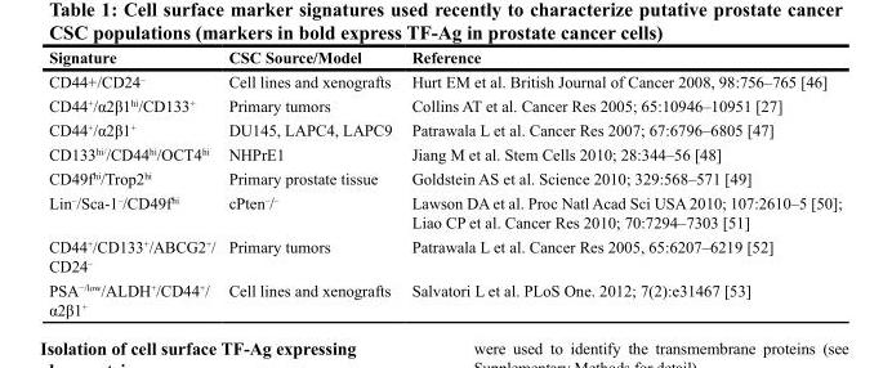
<table><thead><tr><td>Signature</td><td>CSC Source/Model</td><td>Reference</td></tr></thead><tbody><tr><td>CD44+/CD24<sup>–</sup></td><td>Cell lines and xenografts</td><td>Hurt EM et al. British Journal of Cancer 2008, 98:756–765 [46]</td></tr><tr><td>CD44<sup>+</sup>/α2β1<sup>hi</sup>/CD133<sup>+</sup></td><td>Primary tumors</td><td>Collins AT et al. Cancer Res 2005; 65:10946–10951 [27]</td></tr><tr><td>CD44<sup>+</sup>/α2β1<sup>+</sup></td><td>DU145, LAPC4, LAPC9</td><td>Patrawala L et al. Cancer Res 2007; 67:6796–6805 [47]</td></tr><tr><td>CD133<sup>hi/</sup>/CD44<sup>hi</sup>/OCT4<sup>hi</sup></td><td>NHPrE1</td><td>Jiang M et al. Stem Cells 2010; 28:344–56 [48]</td></tr><tr><td>CD49f<sup>hi</sup>/Trop2<sup>hi</sup></td><td>Primary prostate tissue</td><td>Goldstein AS et al. Science 2010; 329:568–571 [49]</td></tr><tr><td>Lin<sup>–</sup>/Sca-1<sup>–</sup>/CD49f<sup>hi</sup></td><td>cPten<sup>–</sup>/<sup>–</sup></td><td>Lawson DA et al. Proc Natl Acad Sci USA 2010; 107:2610–5 [50]; Liao CP et al. Cancer Res 2010; 70:7294–7303 [51]</td></tr><tr><td>CD44<sup>+</sup>/CD133<sup>+</sup>/ABCG2<sup>+</sup>/ CD24<sup>–</sup></td><td>Primary tumors</td><td>Patrawala L et al. Cancer Res 2005, 65:6207–6219 [52]</td></tr><tr><td>PSA<sup>−/low</sup>/ALDH<sup>+</sup>/CD44<sup>+</sup>/ α2β1<sup>+</sup></td><td>Cell lines and xenografts</td><td>Salvatori L et al. PLoS One. 2012; 7(2):e31467 [53]</td></tr></tbody></table>